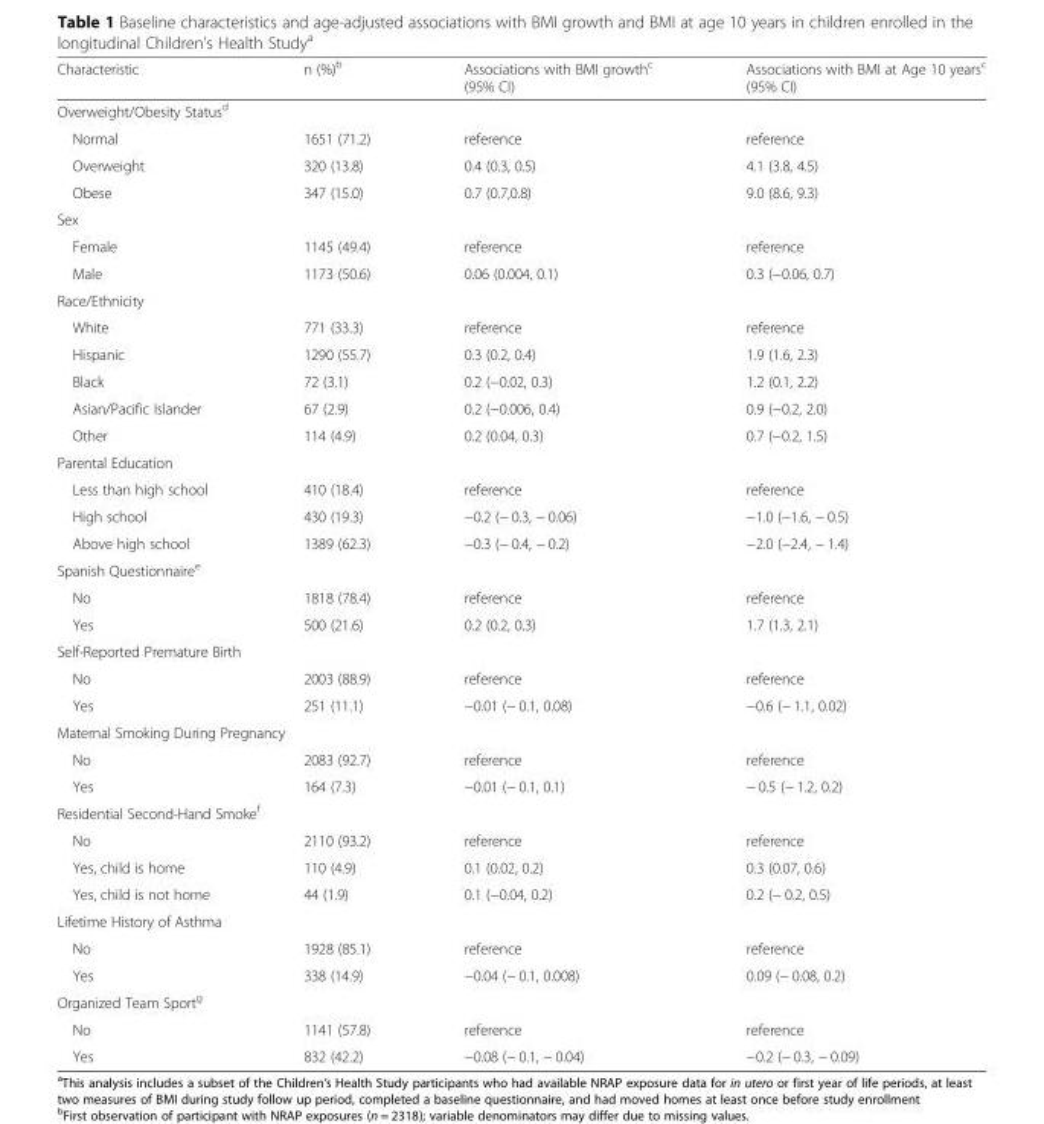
<table><thead><tr><td>Characteristic</td><td>n (%)<sup>b</sup></td><td>Associations with BMI growth<sup>c</sup> (95% CI)</td><td>Associations with BMI at Age 10 years<sup>c</sup> (95% CI)</td></tr></thead><tbody><tr><td colspan="4">Overweight/Obesity Status<sup>d</sup></td></tr><tr><td>Normal</td><td>1651 (71.2)</td><td>reference</td><td>reference</td></tr><tr><td>Overweight</td><td>320 (13.8)</td><td>0.4 (0.3, 0.5)</td><td>4.1 (3.8, 4.5)</td></tr><tr><td>Obese</td><td>347 (15.0)</td><td>0.7 (0.7,0.8)</td><td>9.0 (8.6, 9.3)</td></tr><tr><td colspan="4">Sex</td></tr><tr><td>Female</td><td>1145 (49.4)</td><td>reference</td><td>reference</td></tr><tr><td>Male</td><td>1173 (50.6)</td><td>0.06 (0.004, 0.1)</td><td>0.3 (−0.06, 0.7)</td></tr><tr><td colspan="4">Race/Ethnicity</td></tr><tr><td>White</td><td>771 (33.3)</td><td>reference</td><td>reference</td></tr><tr><td>Hispanic</td><td>1290 (55.7)</td><td>0.3 (0.2, 0.4)</td><td>1.9 (1.6, 2.3)</td></tr><tr><td>Black</td><td>72 (3.1)</td><td>0.2 (−0.02, 0.3)</td><td>1.2 (0.1, 2.2)</td></tr><tr><td>Asian/Pacific Islander</td><td>67 (2.9)</td><td>0.2 (−0.006, 0.4)</td><td>0.9 (−0.2, 2.0)</td></tr><tr><td>Other</td><td>114 (4.9)</td><td>0.2 (0.04, 0.3)</td><td>0.7 (−0.2, 1.5)</td></tr><tr><td colspan="4">Parental Education</td></tr><tr><td>Less than high school</td><td>410 (18.4)</td><td>reference</td><td>reference</td></tr><tr><td>High school</td><td>430 (19.3)</td><td>−0.2 (− 0.3, − 0.06)</td><td>−1.0 (−1.6, − 0.5)</td></tr><tr><td>Above high school</td><td>1389 (62.3)</td><td>−0.3 (− 0.4, − 0.2)</td><td>−2.0 (−2.4, − 1.4)</td></tr><tr><td colspan="4">Spanish Questionnaire<sup>e</sup></td></tr><tr><td>No</td><td>1818 (78.4)</td><td>reference</td><td>reference</td></tr><tr><td>Yes</td><td>500 (21.6)</td><td>0.2 (0.2, 0.3)</td><td>1.7 (1.3, 2.1)</td></tr><tr><td colspan="4">Self-Reported Premature Birth</td></tr><tr><td>No</td><td>2003 (88.9)</td><td>reference</td><td>reference</td></tr><tr><td>Yes</td><td>251 (11.1)</td><td>−0.01 (− 0.1, 0.08)</td><td>−0.6 (− 1.1, 0.02)</td></tr><tr><td colspan="4">Maternal Smoking During Pregnancy</td></tr><tr><td>No</td><td>2083 (92.7)</td><td>reference</td><td>reference</td></tr><tr><td>Yes</td><td>164 (7.3)</td><td>−0.01 (− 0.1, 0.1)</td><td>− 0.5 (− 1.2, 0.2)</td></tr><tr><td colspan="4">Residential Second-Hand Smoke<sup>f</sup></td></tr><tr><td>No</td><td>2110 (93.2)</td><td>reference</td><td>reference</td></tr><tr><td>Yes, child is home</td><td>110 (4.9)</td><td>0.1 (0.02, 0.2)</td><td>0.3 (0.07, 0.6)</td></tr><tr><td>Yes, child is not home</td><td>44 (1.9)</td><td>0.1 (−0.04, 0.2)</td><td>0.2 (− 0.2, 0.5)</td></tr><tr><td colspan="4">Lifetime History of Asthma</td></tr><tr><td>No</td><td>1928 (85.1)</td><td>reference</td><td>reference</td></tr><tr><td>Yes</td><td>338 (14.9)</td><td>−0.04 (− 0.1, 0.008)</td><td>0.09 (− 0.08, 0.2)</td></tr><tr><td colspan="4">Organized Team Sport<sup>g</sup></td></tr><tr><td>No</td><td>1141 (57.8)</td><td>reference</td><td>reference</td></tr><tr><td>Yes</td><td>832 (42.2)</td><td>−0.08 (− 0.1, − 0.04)</td><td>−0.2 (− 0.3, − 0.09)</td></tr></tbody></table>